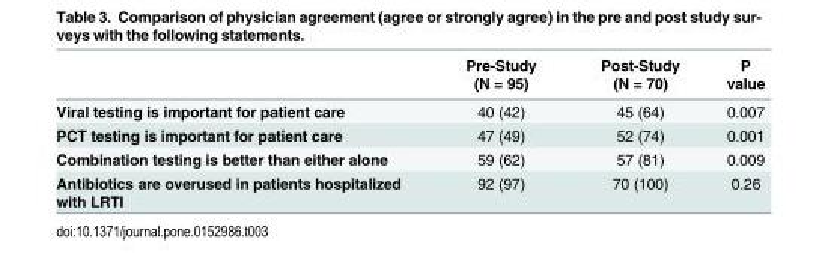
<table><thead><tr><td></td><td>Pre-Study (N = 95)</td><td>Post-Study (N = 70)</td><td>P value</td></tr></thead><tbody><tr><td>Viral testing is important for patient care</td><td>40 (42)</td><td>45 (64)</td><td>0.007</td></tr><tr><td>PCT testing is important for patient care</td><td>47 (49)</td><td>52 (74)</td><td>0.001</td></tr><tr><td>Combination testing is better than either alone</td><td>59 (62)</td><td>57 (81)</td><td>0.009</td></tr><tr><td>Antibiotics are overused in patients hospitalized with LRTI</td><td>92 (97)</td><td>70 (100)</td><td>0.26</td></tr></tbody></table>